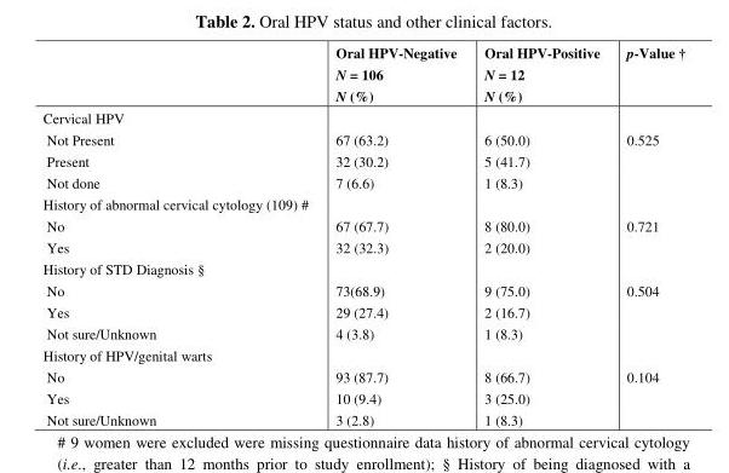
<table><thead><tr><td></td><td>Oral HPV-Negative N = 106 N (%)</td><td>Oral HPV-Positive N = 12 N (%)</td><td>p-Value <sup>†</sup></td></tr></thead><tbody><tr><td colspan="4">Cervical HPV</td></tr><tr><td>Not Present</td><td>67 (63.2)</td><td>6 (50.0)</td><td>0.525</td></tr><tr><td>Present</td><td>32 (30.2)</td><td>5 (41.7)</td><td></td></tr><tr><td>Not done</td><td>7 (6.6)</td><td>1 (8.3)</td><td></td></tr><tr><td colspan="4">History of abnormal cervical cytology (109) #</td></tr><tr><td>No</td><td>67 (67.7)</td><td>8 (80.0)</td><td>0.721</td></tr><tr><td>Yes</td><td>32 (32.3)</td><td>2 (20.0)</td><td></td></tr><tr><td colspan="4">History of STD Diagnosis §</td></tr><tr><td>No</td><td>73(68.9)</td><td>9 (75.0)</td><td>0.504</td></tr><tr><td>Yes</td><td>29 (27.4)</td><td>2 (16.7)</td><td></td></tr><tr><td>Not sure/Unknown</td><td>4 (3.8)</td><td>1 (8.3)</td><td></td></tr><tr><td colspan="4">History of HPV/genital warts</td></tr><tr><td>No</td><td>93 (87.7)</td><td>8 (66.7)</td><td>0.104</td></tr><tr><td>Yes</td><td>10 (9.4)</td><td>3 (25.0)</td><td></td></tr><tr><td>Not sure/Unknown</td><td>3 (2.8)</td><td>1 (8.3)</td><td></td></tr></tbody></table>